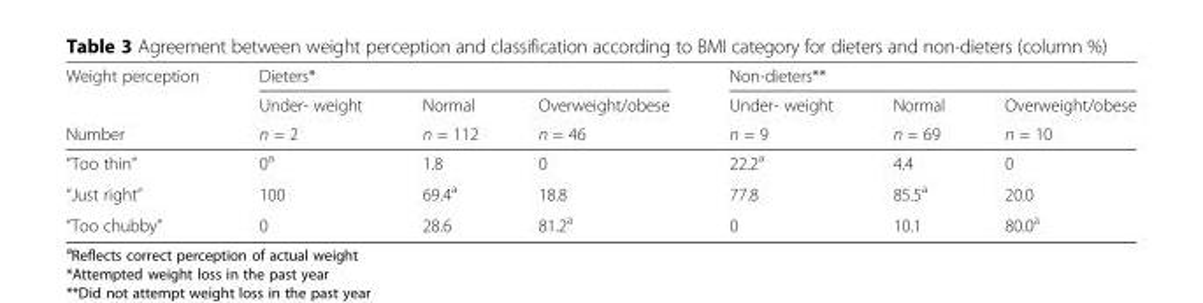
<table><thead><tr><td rowspan="3">Weight perception Number</td><td colspan="3">Dieters*</td><td colspan="3">Non-dieters**</td></tr><tr><td rowspan="2">Under- weight n = 2</td><td rowspan="2">Normal n = 112</td><td rowspan="2">Overweight/obese n = 46</td><td rowspan="2">Under- weight n = 9</td><td rowspan="2">Normal n = 69</td><td rowspan="2">Overweight/obese n = 10</td></tr><tr></tr></thead><tbody><tr><td>“Too thin”</td><td>0<sup>a</sup></td><td>1.8</td><td>0</td><td>22.2<sup>a</sup></td><td>4.4</td><td>0</td></tr><tr><td>“Just right”</td><td>100</td><td>69.4<sup>a</sup></td><td>18.8</td><td>77.8</td><td>85.5<sup>a</sup></td><td>20.0</td></tr><tr><td>“Too chubby”</td><td>0</td><td>28.6</td><td>81.2<sup>a</sup></td><td>0</td><td>10.1</td><td>80.0<sup>a</sup></td></tr></tbody></table>